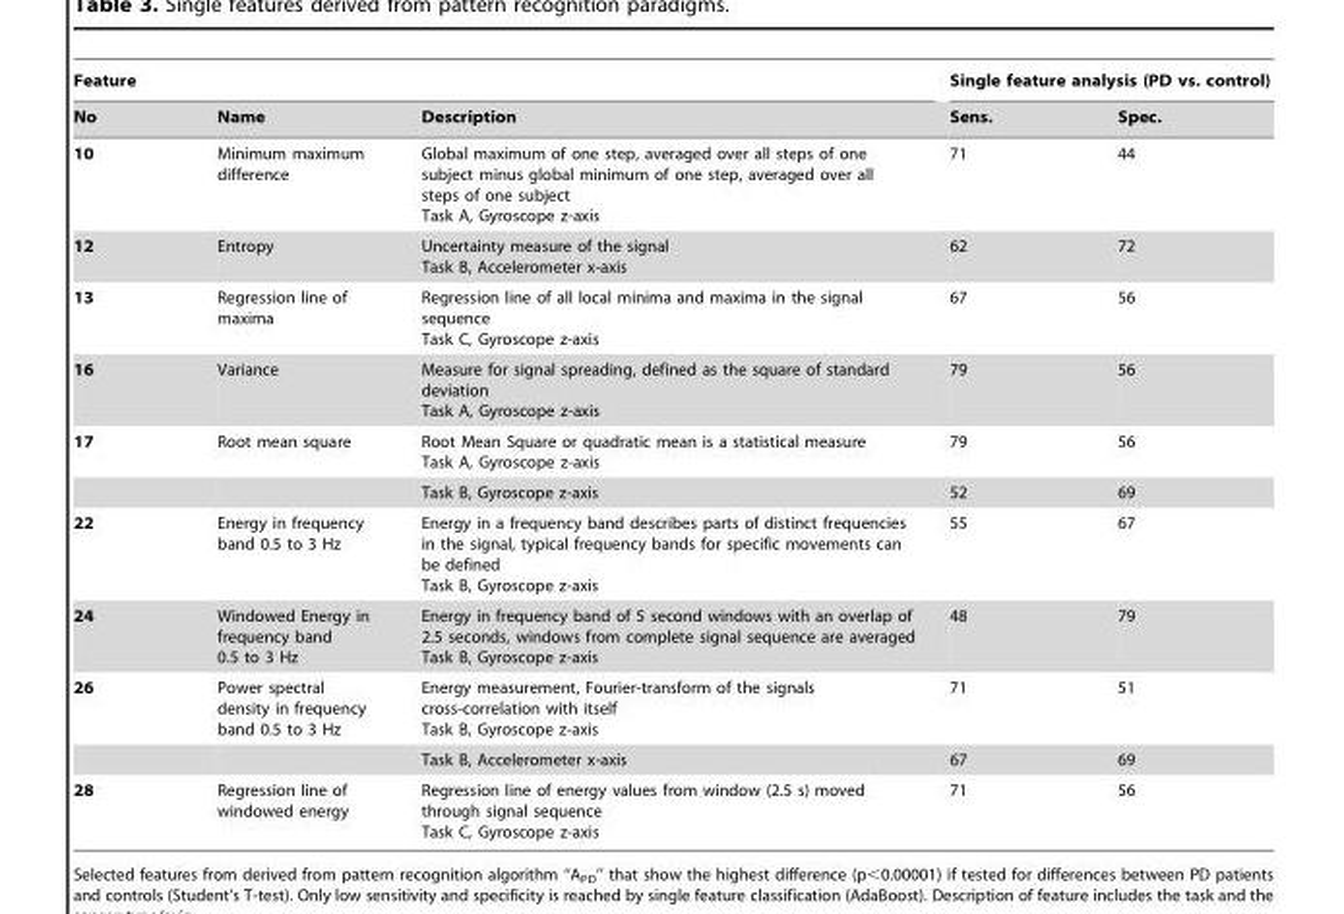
<table><thead><tr><td colspan="3">Feature</td><td colspan="2">Single feature analysis (PD vs. control)</td></tr><tr><td>No</td><td>Name</td><td>Description</td><td>Sens.</td><td>Spec.</td></tr></thead><tbody><tr><td>10</td><td>Minimum maximum difference</td><td>Global maximum of one step, averaged over all steps of one subject minus global minimum of one step, averaged over all steps of one subject Task A, Gyroscope z-axis</td><td>71</td><td>44</td></tr><tr><td>12</td><td>Entropy</td><td>Uncertainty measure of the signal Task B, Accelerometer x-axis</td><td>62</td><td>72</td></tr><tr><td>13</td><td>Regression line of maxima</td><td>Regression line of all local minima and maxima in the signal sequence Task C, Gyroscope z-axis</td><td>67</td><td>56</td></tr><tr><td>16</td><td>Variance</td><td>Measure for signal spreading, defined as the square of standard deviation Task A, Gyroscope z-axis</td><td>79</td><td>56</td></tr><tr><td rowspan="2">17</td><td>Root mean square</td><td>Root Mean Square or quadratic mean is a statistical measure Task A, Gyroscope z-axis</td><td>79</td><td>56</td></tr><tr><td></td><td>Task B, Gyroscope z-axis</td><td>52</td><td>69</td></tr><tr><td>22</td><td>Energy in frequency band 0.5 to 3 Hz</td><td>Energy in a frequency band describes parts of distinct frequencies in the signal, typical frequency bands for specific movements can be defined Task B, Gyroscope z-axis</td><td>55</td><td>67</td></tr><tr><td>24</td><td>Windowed Energy in frequency band 0.5 to 3 Hz</td><td>Energy in frequency band of 5 second windows with an overlap of 2.5 seconds, windows from complete signal sequence are averaged Task B, Gyroscope z-axis</td><td>48</td><td>79</td></tr><tr><td rowspan="2">26</td><td>Power spectral density in frequency band 0.5 to 3 Hz</td><td>Energy measurement, Fourier-transform of the signals cross-correlation with itself Task B, Gyroscope z-axis</td><td>71</td><td>51</td></tr><tr><td></td><td>Task B, Accelerometer x-axis</td><td>67</td><td>69</td></tr><tr><td>28</td><td>Regression line of windowed energy</td><td>Regression line of energy values from window (2.5 s) moved through signal sequence Task C, Gyroscope z-axis</td><td>71</td><td>56</td></tr></tbody></table>